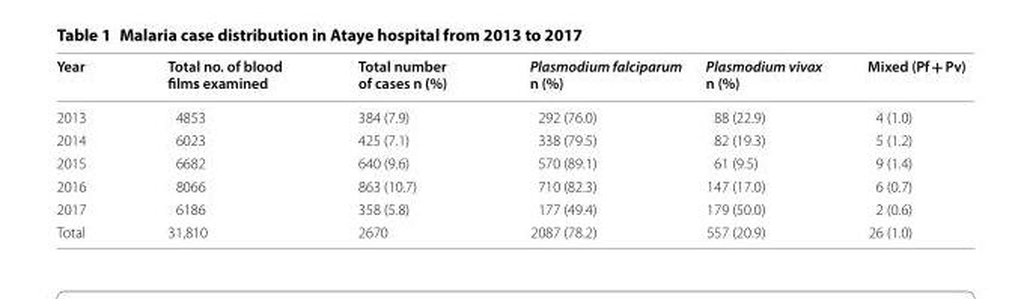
<table><thead><tr><td>Year</td><td>Total no. of blood films examined</td><td>Total number of cases n (%)</td><td>Plasmodium falciparum n (%)</td><td>Plasmodium vivax n (%)</td><td>Mixed (Pf + Pv)</td></tr></thead><tbody><tr><td>2013</td><td>4853</td><td>384 (7.9)</td><td>292 (76.0)</td><td>88 (22.9)</td><td>4 (1.0)</td></tr><tr><td>2014</td><td>6023</td><td>425 (7.1)</td><td>338 (79.5)</td><td>82 (19.3)</td><td>5 (1.2)</td></tr><tr><td>2015</td><td>6682</td><td>640 (9.6)</td><td>570 (89.1)</td><td>61 (9.5)</td><td>9 (1.4)</td></tr><tr><td>2016</td><td>8066</td><td>863 (10.7)</td><td>710 (82.3)</td><td>147 (17.0)</td><td>6 (0.7)</td></tr><tr><td>2017</td><td>6186</td><td>358 (5.8)</td><td>177 (49.4)</td><td>179 (50.0)</td><td>2 (0.6)</td></tr><tr><td>Total</td><td>31,810</td><td>2670</td><td>2087 (78.2)</td><td>557 (20.9)</td><td>26 (1.0)</td></tr></tbody></table>